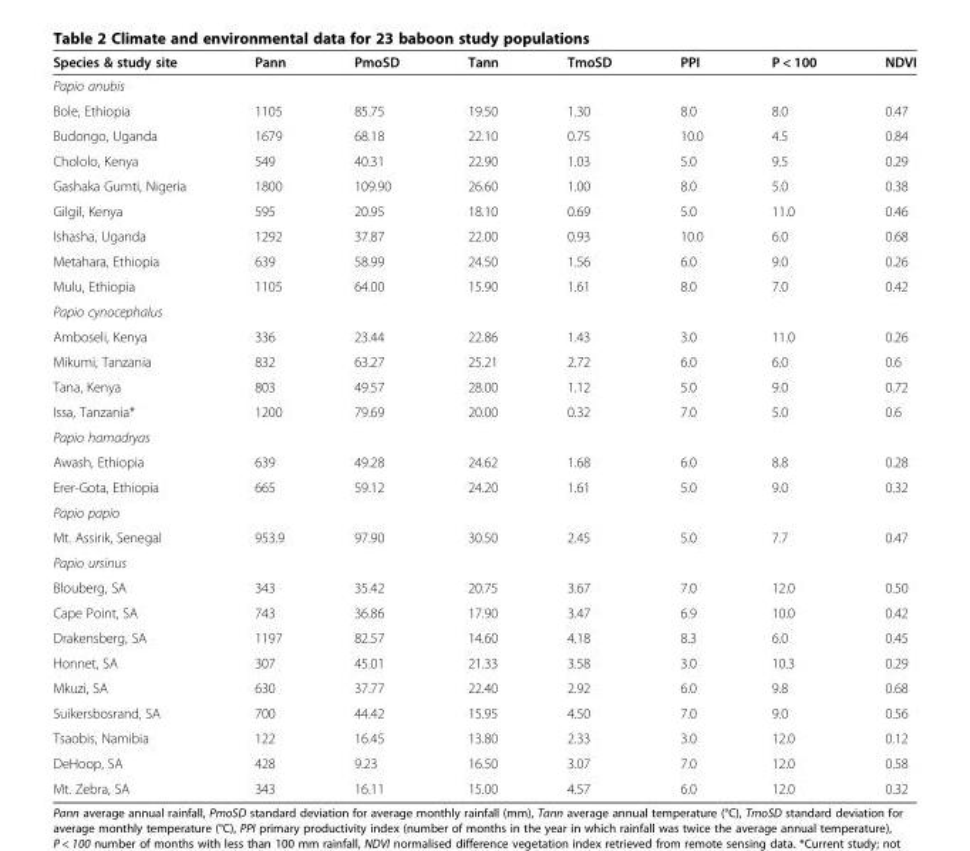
<table><thead><tr><td>Species &amp; study site</td><td>Pann</td><td>PmoSD</td><td>Tann</td><td>TmoSD</td><td>PPI</td><td>P &lt; 100</td><td>NDVI</td></tr></thead><tbody><tr><td colspan="8">Papio anubis</td></tr><tr><td>Bole, Ethiopia</td><td>1105</td><td>85.75</td><td>19.50</td><td>1.30</td><td>8.0</td><td>8.0</td><td>0.47</td></tr><tr><td>Budongo, Uganda</td><td>1679</td><td>68.18</td><td>22.10</td><td>0.75</td><td>10.0</td><td>4.5</td><td>0.84</td></tr><tr><td>Chololo, Kenya</td><td>549</td><td>40.31</td><td>22.90</td><td>1.03</td><td>5.0</td><td>9.5</td><td>0.29</td></tr><tr><td>Gashaka Gumti, Nigeria</td><td>1800</td><td>109.90</td><td>26.60</td><td>1.00</td><td>8.0</td><td>5.0</td><td>0.38</td></tr><tr><td>Gilgil, Kenya</td><td>595</td><td>20.95</td><td>18.10</td><td>0.69</td><td>5.0</td><td>11.0</td><td>0.46</td></tr><tr><td>Ishasha, Uganda</td><td>1292</td><td>37.87</td><td>22.00</td><td>0.93</td><td>10.0</td><td>6.0</td><td>0.68</td></tr><tr><td>Metahara, Ethiopia</td><td>639</td><td>58.99</td><td>24.50</td><td>1.56</td><td>6.0</td><td>9.0</td><td>0.26</td></tr><tr><td>Mulu, Ethiopia</td><td>1105</td><td>64.00</td><td>15.90</td><td>1.61</td><td>8.0</td><td>7.0</td><td>0.42</td></tr><tr><td colspan="8">Papio cynocephalus</td></tr><tr><td>Amboseli, Kenya</td><td>336</td><td>23.44</td><td>22.86</td><td>1.43</td><td>3.0</td><td>11.0</td><td>0.26</td></tr><tr><td>Mikumi, Tanzania</td><td>832</td><td>63.27</td><td>25.21</td><td>2.72</td><td>6.0</td><td>6.0</td><td>0.6</td></tr><tr><td>Tana, Kenya</td><td>803</td><td>49.57</td><td>28.00</td><td>1.12</td><td>5.0</td><td>9.0</td><td>0.72</td></tr><tr><td>Issa, Tanzania*</td><td>1200</td><td>79.69</td><td>20.00</td><td>0.32</td><td>7.0</td><td>5.0</td><td>0.6</td></tr><tr><td colspan="8">Papio hamadryas</td></tr><tr><td>Awash, Ethiopia</td><td>639</td><td>49.28</td><td>24.62</td><td>1.68</td><td>6.0</td><td>8.8</td><td>0.28</td></tr><tr><td>Erer-Gota, Ethiopia</td><td>665</td><td>59.12</td><td>24.20</td><td>1.61</td><td>5.0</td><td>9.0</td><td>0.32</td></tr><tr><td colspan="8">Papio papio</td></tr><tr><td>Mt. Assirik, Senegal</td><td>953.9</td><td>97.90</td><td>30.50</td><td>2.45</td><td>5.0</td><td>7.7</td><td>0.47</td></tr><tr><td colspan="8">Papio ursinus</td></tr><tr><td>Blouberg, SA</td><td>343</td><td>35.42</td><td>20.75</td><td>3.67</td><td>7.0</td><td>12.0</td><td>0.50</td></tr><tr><td>Cape Point, SA</td><td>743</td><td>36.86</td><td>17.90</td><td>3.47</td><td>6.9</td><td>10.0</td><td>0.42</td></tr><tr><td>Drakensberg, SA</td><td>1197</td><td>82.57</td><td>14.60</td><td>4.18</td><td>8.3</td><td>6.0</td><td>0.45</td></tr><tr><td>Honnet, SA</td><td>307</td><td>45.01</td><td>21.33</td><td>3.58</td><td>3.0</td><td>10.3</td><td>0.29</td></tr><tr><td>Mkuzi, SA</td><td>630</td><td>37.77</td><td>22.40</td><td>2.92</td><td>6.0</td><td>9.8</td><td>0.68</td></tr><tr><td>Suikersbosrand, SA</td><td>700</td><td>44.42</td><td>15.95</td><td>4.50</td><td>7.0</td><td>9.0</td><td>0.56</td></tr><tr><td>Tsaobis, Namibia</td><td>122</td><td>16.45</td><td>13.80</td><td>2.33</td><td>3.0</td><td>12.0</td><td>0.12</td></tr><tr><td>DeHoop, SA</td><td>428</td><td>9.23</td><td>16.50</td><td>3.07</td><td>7.0</td><td>12.0</td><td>0.58</td></tr><tr><td>Mt. Zebra, SA</td><td>343</td><td>16.11</td><td>15.00</td><td>4.57</td><td>6.0</td><td>12.0</td><td>0.32</td></tr></tbody></table>